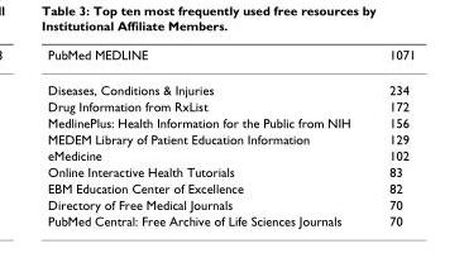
<table><thead><tr><td>PubMed MEDLINE</td><td>1071</td></tr></thead><tbody><tr><td>Diseases, Conditions &amp; Injuries</td><td>234</td></tr><tr><td>Drug Information from RxList</td><td>172</td></tr><tr><td>MedlinePlus: Health Information for the Public from NIH</td><td>156</td></tr><tr><td>MEDEM Library of Patient Education Information</td><td>129</td></tr><tr><td>eMedicine</td><td>102</td></tr><tr><td>Online Interactive Health Tutorials</td><td>83</td></tr><tr><td>EBM Education Center of Excellence</td><td>82</td></tr><tr><td>Directory of Free Medical Journals</td><td>70</td></tr><tr><td>PubMed Central: Free Archive of Life Sciences Journals</td><td>70</td></tr></tbody></table>